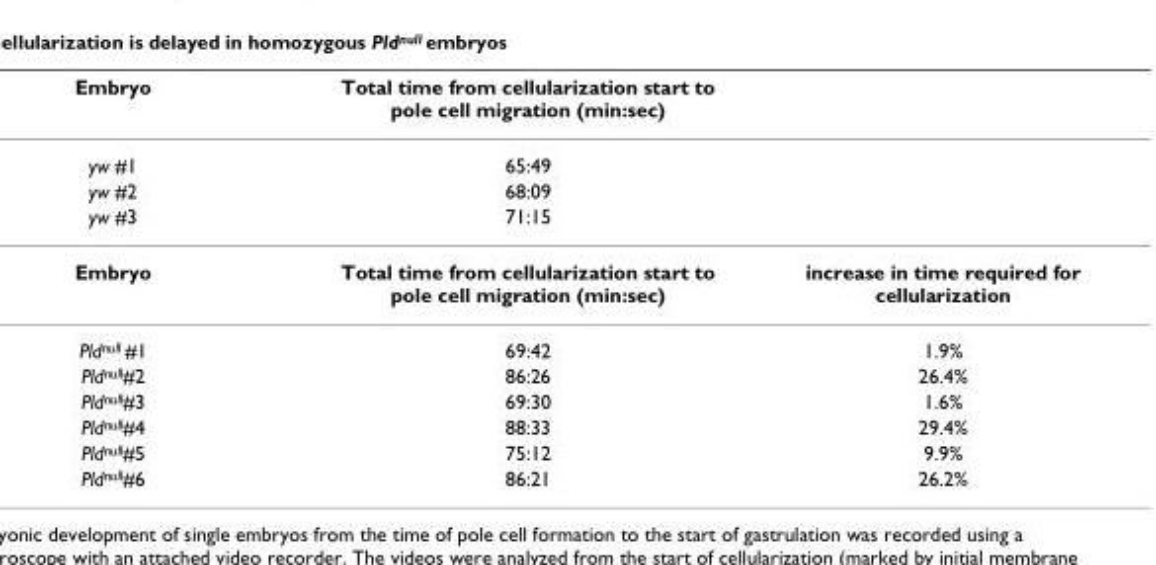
<table><thead><tr><td>Embryo</td><td>Total time from cellularization start to pole cell migration (min:sec)</td><td></td></tr></thead><tbody><tr><td>yw #1</td><td>65:49</td><td></td></tr><tr><td>yw #2</td><td>68:09</td><td></td></tr><tr><td>yw #3</td><td>71:15</td><td></td></tr><tr><td>Embryo</td><td>Total time from cellularization start to pole cell migration (min:sec)</td><td>increase in time required for cellularization</td></tr><tr><td>Pld<sup>null</sup> #1</td><td>69:42</td><td>1.9%</td></tr><tr><td>Pld<sup>null</sup>#2</td><td>86:26</td><td>26.4%</td></tr><tr><td>Pld<sup>null</sup>#3</td><td>69:30</td><td>1.6%</td></tr><tr><td>Pld<sup>null</sup>#4</td><td>88:33</td><td>29.4%</td></tr><tr><td>Pld<sup>null</sup>#5</td><td>75:12</td><td>9.9%</td></tr><tr><td>Pld<sup>null</sup>#6</td><td>86:21</td><td>26.2%</td></tr></tbody></table>